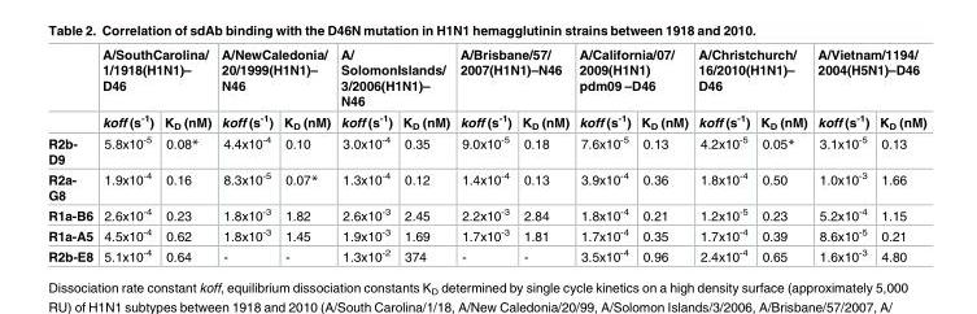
<table><thead><tr><td rowspan="2"></td><td colspan="2">A/SouthCarolina/ 1/1918(H1N1)– D46</td><td colspan="2">A/NewCaledonia/ 20/1999(H1N1)– N46</td><td colspan="2">A/ SolomonIslands/ 3/2006(H1N1)– N46</td><td colspan="2">A/Brisbane/57/ 2007(H1N1)–N46</td><td colspan="2">A/California/07/ 2009(H1N1) pdm09 –D46</td><td colspan="2">A/Christchurch/ 16/2010(H1N1)– D46</td><td colspan="2">A/Vietnam/1194/ 2004(H5N1)–D46</td></tr><tr><td>koff (s<sup>-1</sup>)</td><td>K<sub>D</sub> (nM)</td><td>koff (s<sup>-1</sup>)</td><td>K<sub>D</sub> (nM)</td><td>koff (s<sup>-1</sup>)</td><td>K<sub>D</sub> (nM)</td><td>koff (s<sup>-1</sup>)</td><td>K<sub>D</sub> (nM)</td><td>koff (s<sup>-1</sup>)</td><td>K<sub>D</sub> (nM)</td><td>koff (s<sup>-1</sup>)</td><td>K<sub>D</sub> (nM)</td><td>koff (s<sup>-1</sup>)</td><td>K<sub>D</sub> (nM)</td></tr></thead><tbody><tr><td>R2b- D9</td><td>5.8x10<sup>-5</sup></td><td>0.08*</td><td>4.4x10<sup>-4</sup></td><td>0.10</td><td>3.0x10<sup>-4</sup></td><td>0.35</td><td>9.0x10<sup>-5</sup></td><td>0.18</td><td>7.6x10<sup>-5</sup></td><td>0.13</td><td>4.2x10<sup>-5</sup></td><td>0.05*</td><td>3.1x10<sup>-5</sup></td><td>0.13</td></tr><tr><td>R2a- G8</td><td>1.9x10<sup>-4</sup></td><td>0.16</td><td>8.3x10<sup>-5</sup></td><td>0.07*</td><td>1.3x10<sup>-4</sup></td><td>0.12</td><td>1.4x10<sup>-4</sup></td><td>0.13</td><td>3.9x10<sup>-4</sup></td><td>0.36</td><td>1.8x10<sup>-4</sup></td><td>0.50</td><td>1.0x10<sup>-3</sup></td><td>1.66</td></tr><tr><td>R1a-B6</td><td>2.6x10<sup>-4</sup></td><td>0.23</td><td>1.8x10<sup>-3</sup></td><td>1.82</td><td>2.6x10<sup>-3</sup></td><td>2.45</td><td>2.2x10<sup>-3</sup></td><td>2.84</td><td>1.8x10<sup>-4</sup></td><td>0.21</td><td>1.2x10<sup>-5</sup></td><td>0.23</td><td>5.2x10<sup>-4</sup></td><td>1.15</td></tr><tr><td>R1a-A5</td><td>4.5x10<sup>-4</sup></td><td>0.62</td><td>1.8x10<sup>-3</sup></td><td>1.45</td><td>1.9x10<sup>-3</sup></td><td>1.69</td><td>1.7x10<sup>-3</sup></td><td>1.81</td><td>1.7x10<sup>-4</sup></td><td>0.35</td><td>1.7x10<sup>-4</sup></td><td>0.39</td><td>8.6x10<sup>-5</sup></td><td>0.21</td></tr><tr><td>R2b-E8</td><td>5.1x10<sup>-4</sup></td><td>0.64</td><td>-</td><td>-</td><td>1.3x10<sup>-2</sup></td><td>374</td><td>-</td><td>-</td><td>3.5x10<sup>-4</sup></td><td>0.96</td><td>2.4x10<sup>-4</sup></td><td>0.65</td><td>1.6x10<sup>-3</sup></td><td>4.80</td></tr></tbody></table>